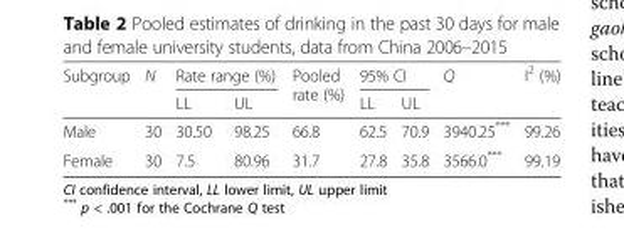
<table><thead><tr><td rowspan="2">Subgroup</td><td rowspan="2">N</td><td colspan="2">Rate range (%)</td><td rowspan="2">Pooled rate (%)</td><td colspan="2">95% CI</td><td rowspan="2">Q</td><td rowspan="2">I<sup>2</sup> (%)</td></tr><tr><td>LL</td><td>UL</td><td>LL</td><td>UL</td></tr></thead><tbody><tr><td>Male</td><td>30</td><td>30.50</td><td>98.25</td><td>66.8</td><td>62.5</td><td>70.9</td><td>3940.25***</td><td>99.26</td></tr><tr><td>Female</td><td>30</td><td>7.5</td><td>80.96</td><td>31.7</td><td>27.8</td><td>35.8</td><td>3566.0***</td><td>99.19</td></tr></tbody></table>